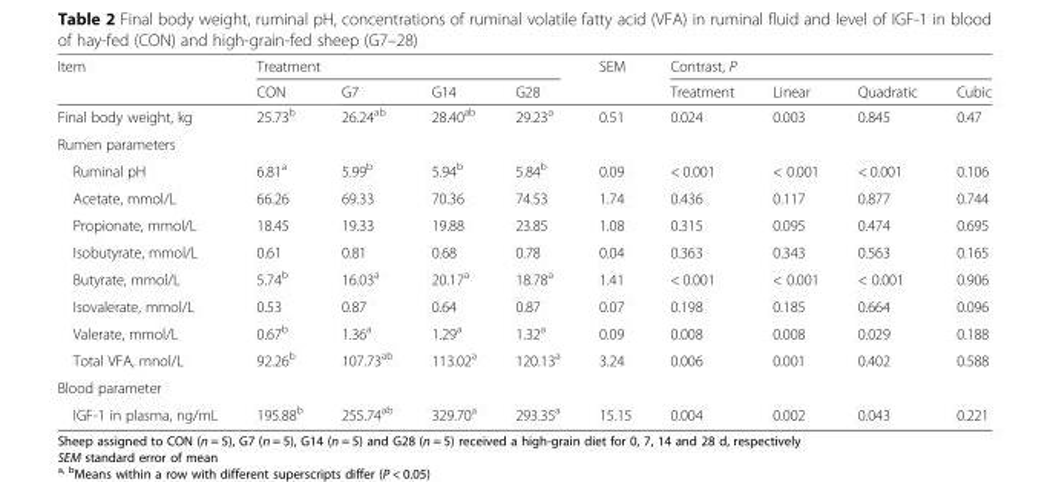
<table><thead><tr><td rowspan="2">Item</td><td colspan="4">Treatment</td><td rowspan="2">SEM</td><td colspan="4">Contrast, P</td></tr><tr><td>CON</td><td>G7</td><td>G14</td><td>G28</td><td>Treatment</td><td>Linear</td><td>Quadratic</td><td>Cubic</td></tr></thead><tbody><tr><td>Final body weight, kg</td><td>25.73<sup>b</sup></td><td>26.24<sup>ab</sup></td><td>28.40<sup>ab</sup></td><td>29.23<sup>a</sup></td><td>0.51</td><td>0.024</td><td>0.003</td><td>0.845</td><td>0.47</td></tr><tr><td colspan="10">Rumen parameters</td></tr><tr><td>Ruminal pH</td><td>6.81<sup>a</sup></td><td>5.99<sup>b</sup></td><td>5.94<sup>b</sup></td><td>5.84<sup>b</sup></td><td>0.09</td><td>&lt; 0.001</td><td>&lt; 0.001</td><td>&lt; 0.001</td><td>0.106</td></tr><tr><td>Acetate, mmol/L</td><td>66.26</td><td>69.33</td><td>70.36</td><td>74.53</td><td>1.74</td><td>0.436</td><td>0.117</td><td>0.877</td><td>0.744</td></tr><tr><td>Propionate, mmol/L</td><td>18.45</td><td>19.33</td><td>19.88</td><td>23.85</td><td>1.08</td><td>0.315</td><td>0.095</td><td>0.474</td><td>0.695</td></tr><tr><td>Isobutyrate, mmol/L</td><td>0.61</td><td>0.81</td><td>0.68</td><td>0.78</td><td>0.04</td><td>0.363</td><td>0.343</td><td>0.563</td><td>0.165</td></tr><tr><td>Butyrate, mmol/L</td><td>5.74<sup>b</sup></td><td>16.03<sup>a</sup></td><td>20.17<sup>a</sup></td><td>18.78<sup>a</sup></td><td>1.41</td><td>&lt; 0.001</td><td>&lt; 0.001</td><td>&lt; 0.001</td><td>0.906</td></tr><tr><td>Isovalerate, mmol/L</td><td>0.53</td><td>0.87</td><td>0.64</td><td>0.87</td><td>0.07</td><td>0.198</td><td>0.185</td><td>0.664</td><td>0.096</td></tr><tr><td>Valerate, mmol/L</td><td>0.67<sup>b</sup></td><td>1.36<sup>a</sup></td><td>1.29<sup>a</sup></td><td>1.32<sup>a</sup></td><td>0.09</td><td>0.008</td><td>0.008</td><td>0.029</td><td>0.188</td></tr><tr><td>Total VFA, mnol/L</td><td>92.26<sup>b</sup></td><td>107.73<sup>ab</sup></td><td>113.02<sup>a</sup></td><td>120.13<sup>a</sup></td><td>3.24</td><td>0.006</td><td>0.001</td><td>0.402</td><td>0.588</td></tr><tr><td colspan="10">Blood parameter</td></tr><tr><td>IGF-1 in plasma, ng/mL</td><td>195.88<sup>b</sup></td><td>255.74<sup>ab</sup></td><td>329.70<sup>a</sup></td><td>293.35<sup>a</sup></td><td>15.15</td><td>0.004</td><td>0.002</td><td>0.043</td><td>0.221</td></tr></tbody></table>